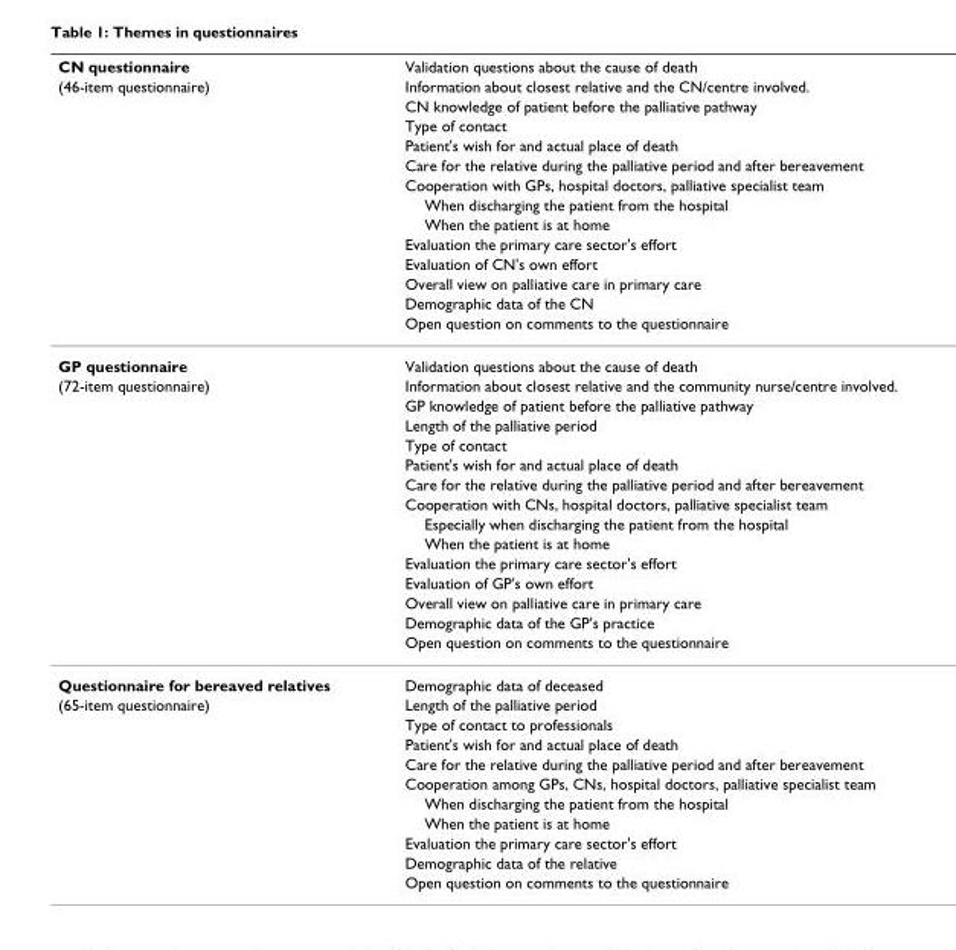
<table><thead><tr><td rowspan="14">CN questionnaire (46-item questionnaire)</td><td rowspan="14">Validation questions about the cause of death Information about closest relative and the CN/centre involved. CN knowledge of patient before the palliative pathway Type of contact Patient&#x27;s wish for and actual place of death Care for the relative during the palliative period and after bereavement Cooperation with GPs, hospital doctors, palliative specialist team When discharging the patient from the hospital When the patient is at home Evaluation the primary care sector&#x27;s effort Evaluation of CN&#x27;s own effort Overall view on palliative care in primary care Demographic data of the CN Open question on comments to the questionnaire</td></tr><tr></tr><tr></tr><tr></tr><tr></tr><tr></tr><tr></tr><tr></tr><tr></tr><tr></tr><tr></tr><tr></tr><tr></tr><tr></tr></thead><tbody><tr><td>GP questionnaire</td><td>Validation questions about the cause of death</td></tr><tr><td rowspan="14">(72-item questionnaire)</td><td>Information about closest relative and the community nurse/centre involved.</td></tr><tr><td>GP knowledge of patient before the palliative pathway</td></tr><tr><td>Length of the palliative period</td></tr><tr><td>Type of contact</td></tr><tr><td>Patient&#x27;s wish for and actual place of death</td></tr><tr><td>Care for the relative during the palliative period and after bereavement</td></tr><tr><td>Cooperation with CNs, hospital doctors, palliative specialist team</td></tr><tr><td>Especially when discharging the patient from the hospital</td></tr><tr><td>When the patient is at home</td></tr><tr><td>Evaluation the primary care sector&#x27;s effort</td></tr><tr><td>Evaluation of GP&#x27;s own effort</td></tr><tr><td>Overall view on palliative care in primary care</td></tr><tr><td>Demographic data of the GP&#x27;s practice</td></tr><tr><td>Open question on comments to the questionnaire</td></tr><tr><td>Questionnaire for bereaved relatives</td><td>Demographic data of deceased</td></tr><tr><td rowspan="10">(65-item questionnaire)</td><td>Length of the palliative period</td></tr><tr><td>Type of contact to professionals</td></tr><tr><td>Patient&#x27;s wish for and actual place of death</td></tr><tr><td>Care for the relative during the palliative period and after bereavement</td></tr><tr><td>Cooperation among GPs, CNs, hospital doctors, palliative specialist team</td></tr><tr><td>When discharging the patient from the hospital</td></tr><tr><td>When the patient is at home</td></tr><tr><td>Evaluation the primary care sector&#x27;s effort</td></tr><tr><td>Demographic data of the relative</td></tr><tr><td>Open question on comments to the questionnaire</td></tr></tbody></table>